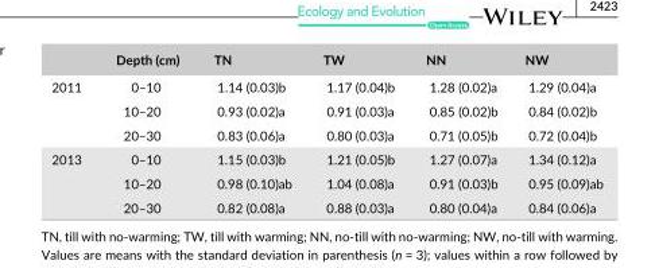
<table><thead><tr><td></td><td>Depth (cm)</td><td>TN</td><td>TW</td><td>NN</td><td>NW</td></tr></thead><tbody><tr><td rowspan="3">2011</td><td>0–10</td><td>1.14 (0.03)b</td><td>1.17 (0.04)b</td><td>1.28 (0.02)a</td><td>1.29 (0.04)a</td></tr><tr><td>10–20</td><td>0.93 (0.02)a</td><td>0.91 (0.03)a</td><td>0.85 (0.02)b</td><td>0.84 (0.02)b</td></tr><tr><td>20–30</td><td>0.83 (0.06)a</td><td>0.80 (0.03)a</td><td>0.71 (0.05)b</td><td>0.72 (0.04)b</td></tr><tr><td rowspan="3">2013</td><td>0–10</td><td>1.15 (0.03)b</td><td>1.21 (0.05)b</td><td>1.27 (0.07)a</td><td>1.34 (0.12)a</td></tr><tr><td>10–20</td><td>0.98 (0.10)ab</td><td>1.04 (0.08)a</td><td>0.91 (0.03)b</td><td>0.95 (0.09)ab</td></tr><tr><td>20–30</td><td>0.82 (0.08)a</td><td>0.88 (0.03)a</td><td>0.80 (0.04)a</td><td>0.84 (0.06)a</td></tr></tbody></table>